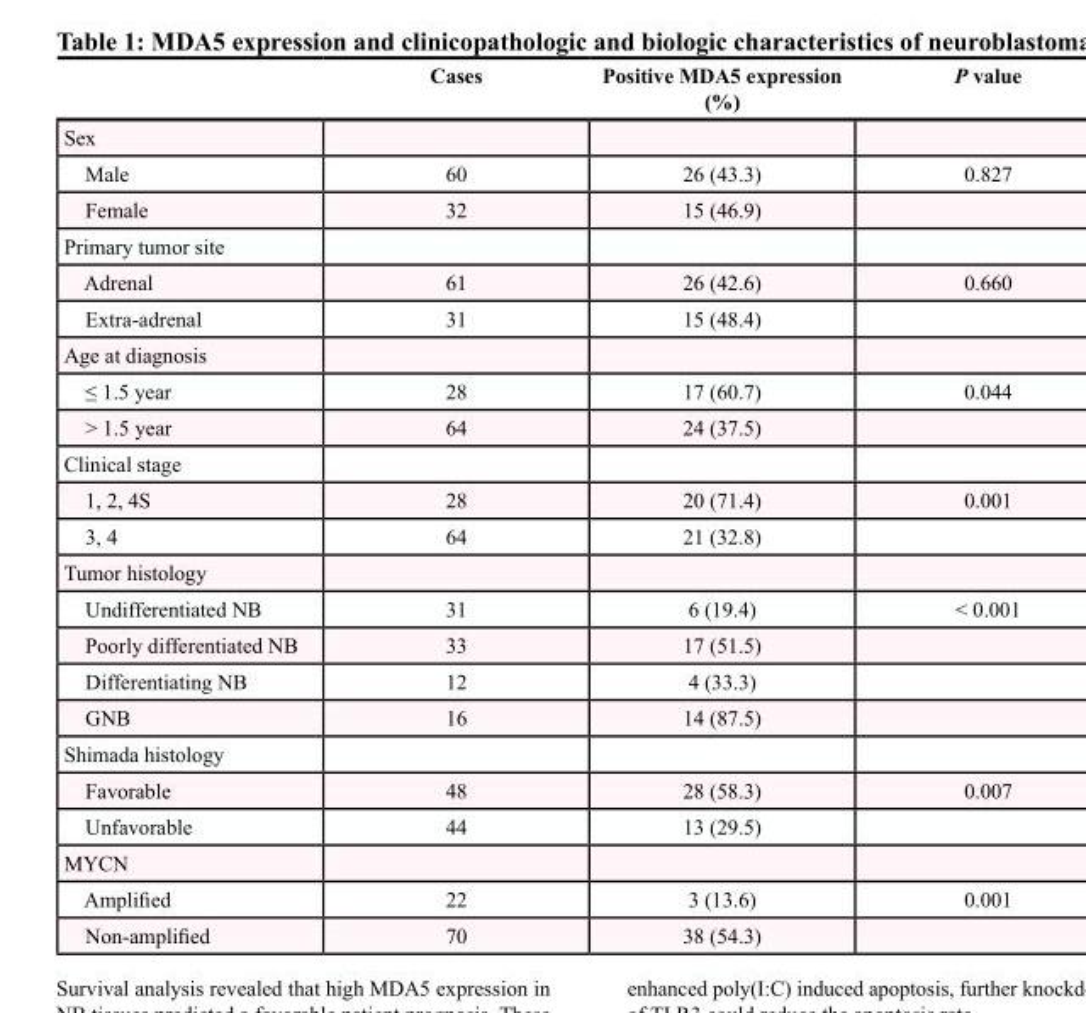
<table><thead><tr><td></td><td>Cases</td><td>Positive MDA5 expression (%)</td><td>P value</td></tr></thead><tbody><tr><td colspan="4">Sex</td></tr><tr><td>Male</td><td>60</td><td>26 (43.3)</td><td>0.827</td></tr><tr><td>Female</td><td>32</td><td>15 (46.9)</td><td></td></tr><tr><td colspan="4">Primary tumor site</td></tr><tr><td>Adrenal</td><td>61</td><td>26 (42.6)</td><td>0.660</td></tr><tr><td>Extra-adrenal</td><td>31</td><td>15 (48.4)</td><td></td></tr><tr><td colspan="4">Age at diagnosis</td></tr><tr><td>≤ 1.5 year</td><td>28</td><td>17 (60.7)</td><td>0.044</td></tr><tr><td>&gt; 1.5 year</td><td>64</td><td>24 (37.5)</td><td></td></tr><tr><td colspan="4">Clinical stage</td></tr><tr><td>1, 2, 4S</td><td>28</td><td>20 (71.4)</td><td>0.001</td></tr><tr><td>3, 4</td><td>64</td><td>21 (32.8)</td><td></td></tr><tr><td colspan="4">Tumor histology</td></tr><tr><td>Undifferentiated NB</td><td>31</td><td>6 (19.4)</td><td>&lt; 0.001</td></tr><tr><td>Poorly differentiated NB</td><td>33</td><td>17 (51.5)</td><td></td></tr><tr><td>Differentiating NB</td><td>12</td><td>4 (33.3)</td><td></td></tr><tr><td>GNB</td><td>16</td><td>14 (87.5)</td><td></td></tr><tr><td colspan="4">Shimada histology</td></tr><tr><td>Favorable</td><td>48</td><td>28 (58.3)</td><td>0.007</td></tr><tr><td>Unfavorable</td><td>44</td><td>13 (29.5)</td><td></td></tr><tr><td colspan="4">MYCN</td></tr><tr><td>Amplified</td><td>22</td><td>3 (13.6)</td><td>0.001</td></tr><tr><td>Non-amplified</td><td>70</td><td>38 (54.3)</td><td></td></tr></tbody></table>